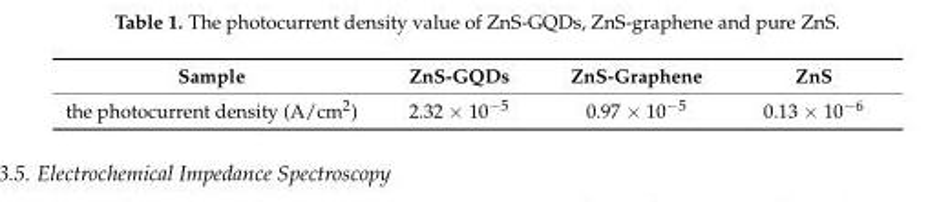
<table><thead><tr><td>Sample</td><td>ZnS-GQDs</td><td>ZnS-Graphene</td><td>ZnS</td></tr></thead><tbody><tr><td>the photocurrent density (A/cm<sup>2</sup>)</td><td>2.32 × 10<sup>−5</sup></td><td>0.97 × 10<sup>−5</sup></td><td>0.13 × 10<sup>−6</sup></td></tr></tbody></table>